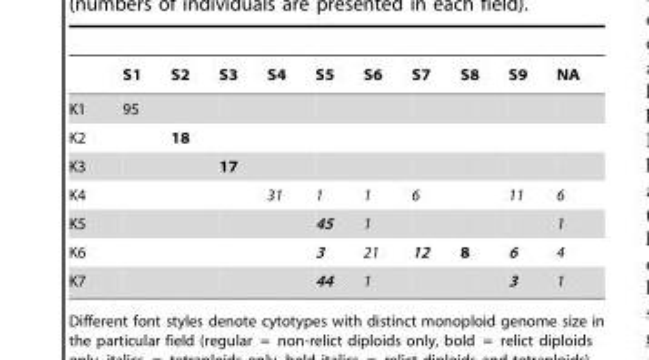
<table><thead><tr><td></td><td>S1</td><td>S2</td><td>S3</td><td>S4</td><td>S5</td><td>S6</td><td>S7</td><td>S8</td><td>S9</td><td>NA</td></tr></thead><tbody><tr><td>K1</td><td>95</td><td></td><td></td><td></td><td></td><td></td><td></td><td></td><td></td><td></td></tr><tr><td>K2</td><td></td><td>18</td><td></td><td></td><td></td><td></td><td></td><td></td><td></td><td></td></tr><tr><td>K3</td><td></td><td></td><td>17</td><td></td><td></td><td></td><td></td><td></td><td></td><td></td></tr><tr><td>K4</td><td></td><td></td><td></td><td>31</td><td>1</td><td>1</td><td>6</td><td></td><td>11</td><td>6</td></tr><tr><td>K5</td><td></td><td></td><td></td><td></td><td>45</td><td>1</td><td></td><td></td><td></td><td>1</td></tr><tr><td>K6</td><td></td><td></td><td></td><td></td><td>3</td><td>21</td><td>12</td><td>8</td><td>6</td><td>4</td></tr><tr><td>K7</td><td></td><td></td><td></td><td></td><td>44</td><td>1</td><td></td><td></td><td>3</td><td>1</td></tr></tbody></table>